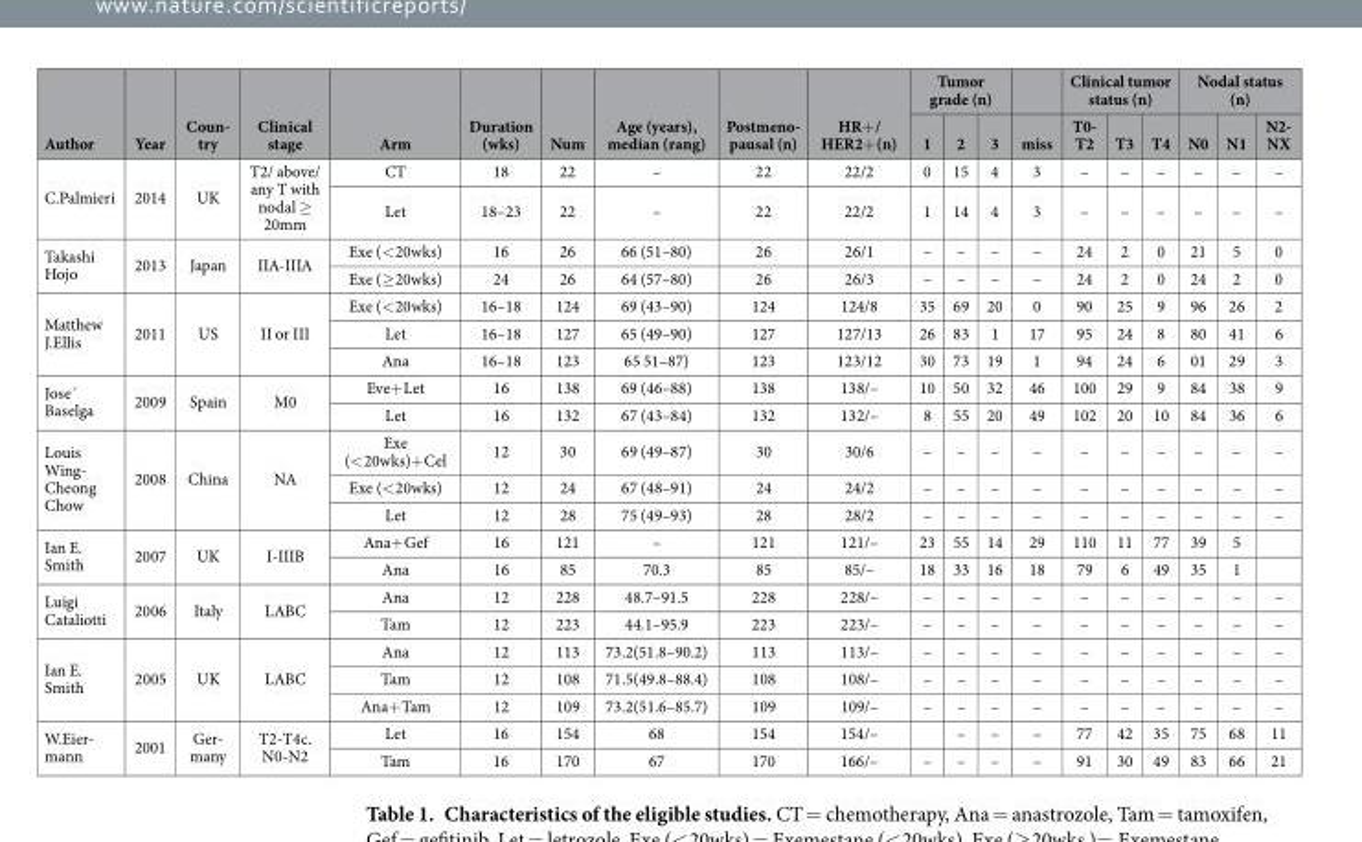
<table><thead><tr><td rowspan="2">Author</td><td rowspan="2">Year</td><td rowspan="2">Coun- try</td><td rowspan="2">Clinical stage</td><td rowspan="2">Arm</td><td rowspan="2">Duration (wks)</td><td rowspan="2">Num</td><td rowspan="2">Age (years), median (rang)</td><td rowspan="2">Postmeno- pausal (n)</td><td rowspan="2">HR+ / HER2+ (n)</td><td colspan="3">Tumor grade (n)</td><td rowspan="2">miss</td><td colspan="3">Clinical tumor status (n)</td><td colspan="3">Nodal status (n)</td></tr><tr><td>1</td><td>2</td><td>3</td><td>T0- T2</td><td>T3</td><td>T4</td><td>N0</td><td>N1</td><td>N2- NX</td></tr></thead><tbody><tr><td rowspan="2">C.Palmieri</td><td rowspan="2">2014</td><td rowspan="2">UK</td><td rowspan="2">T2/ above/ any T with nodal ≥ 20mm</td><td>CT</td><td>18</td><td>22</td><td>–</td><td>22</td><td>22/2</td><td>0</td><td>15</td><td>4</td><td>3</td><td>–</td><td>–</td><td>–</td><td>–</td><td>–</td><td>–</td></tr><tr><td>Let</td><td>18–23</td><td>22</td><td>–</td><td>22</td><td>22/2</td><td>1</td><td>14</td><td>4</td><td>3</td><td>–</td><td>–</td><td>–</td><td>–</td><td>–</td><td>–</td></tr><tr><td rowspan="2">Takashi Hojo</td><td rowspan="2">2013</td><td rowspan="2">Japan</td><td rowspan="2">IIA-IIIA</td><td>Exe (&lt; 20wks)</td><td>16</td><td>26</td><td>66 (51–80)</td><td>26</td><td>26/1</td><td>–</td><td>–</td><td>–</td><td>–</td><td>24</td><td>2</td><td>0</td><td>21</td><td>5</td><td>0</td></tr><tr><td>Exe (≥ 20wks)</td><td>24</td><td>26</td><td>64 (57–80)</td><td>26</td><td>26/3</td><td>–</td><td>–</td><td>–</td><td>–</td><td>24</td><td>2</td><td>0</td><td>24</td><td>2</td><td>0</td></tr><tr><td rowspan="3">Matthew J.Ellis</td><td rowspan="3">2011</td><td rowspan="3">US</td><td rowspan="3">II or III</td><td>Exe (&lt; 20wks)</td><td>16–18</td><td>124</td><td>69 (43–90)</td><td>124</td><td>124/8</td><td>35</td><td>69</td><td>20</td><td>0</td><td>90</td><td>25</td><td>9</td><td>96</td><td>26</td><td>2</td></tr><tr><td>Let</td><td>16–18</td><td>127</td><td>65 (49–90)</td><td>127</td><td>127/13</td><td>26</td><td>83</td><td>1</td><td>17</td><td>95</td><td>24</td><td>8</td><td>80</td><td>41</td><td>6</td></tr><tr><td>Ana</td><td>16–18</td><td>123</td><td>65 51–87)</td><td>123</td><td>123/12</td><td>30</td><td>73</td><td>19</td><td>1</td><td>94</td><td>24</td><td>6</td><td>01</td><td>29</td><td>3</td></tr><tr><td rowspan="2">Jose´ Baselga</td><td rowspan="2">2009</td><td rowspan="2">Spain</td><td rowspan="2">M0</td><td>Eve+ Let</td><td>16</td><td>138</td><td>69 (46–88)</td><td>138</td><td>138/–</td><td>10</td><td>50</td><td>32</td><td>46</td><td>100</td><td>29</td><td>9</td><td>84</td><td>38</td><td>9</td></tr><tr><td>Let</td><td>16</td><td>132</td><td>67 (43–84)</td><td>132</td><td>132/–</td><td>8</td><td>55</td><td>20</td><td>49</td><td>102</td><td>20</td><td>10</td><td>84</td><td>36</td><td>6</td></tr><tr><td rowspan="3">Louis Wing- Cheong Chow</td><td rowspan="3">2008</td><td rowspan="3">China</td><td rowspan="3">NA</td><td>Exe (&lt; 20wks)+ Cel</td><td>12</td><td>30</td><td>69 (49–87)</td><td>30</td><td>30/6</td><td>–</td><td>–</td><td>–</td><td>–</td><td>–</td><td>–</td><td>–</td><td>–</td><td>–</td><td>–</td></tr><tr><td>Exe (&lt; 20wks)</td><td>12</td><td>24</td><td>67 (48–91)</td><td>24</td><td>24/2</td><td>–</td><td>–</td><td>–</td><td>–</td><td>–</td><td>–</td><td>–</td><td>–</td><td>–</td><td>–</td></tr><tr><td>Let</td><td>12</td><td>28</td><td>75 (49–93)</td><td>28</td><td>28/2</td><td>–</td><td>–</td><td>–</td><td>–</td><td>–</td><td>–</td><td>–</td><td>–</td><td>–</td><td>–</td></tr><tr><td rowspan="2">Ian E. Smith</td><td rowspan="2">2007</td><td rowspan="2">UK</td><td rowspan="2">I-IIIB</td><td>Ana+ Gef</td><td>16</td><td>121</td><td>–</td><td>121</td><td>121/–</td><td>23</td><td>55</td><td>14</td><td>29</td><td>110</td><td>11</td><td>77</td><td>39</td><td>5</td><td></td></tr><tr><td>Ana</td><td>16</td><td>85</td><td>70.3</td><td>85</td><td>85/–</td><td>18</td><td>33</td><td>16</td><td>18</td><td>79</td><td>6</td><td>49</td><td>35</td><td>1</td><td></td></tr><tr><td rowspan="2">Luigi Cataliotti</td><td rowspan="2">2006</td><td rowspan="2">Italy</td><td rowspan="2">LABC</td><td>Ana</td><td>12</td><td>228</td><td>48.7–91.5</td><td>228</td><td>228/–</td><td>–</td><td>–</td><td>–</td><td>–</td><td>–</td><td>–</td><td>–</td><td>–</td><td>–</td><td>–</td></tr><tr><td>Tam</td><td>12</td><td>223</td><td>44.1–95.9</td><td>223</td><td>223/–</td><td>–</td><td>–</td><td>–</td><td>–</td><td>–</td><td>–</td><td>–</td><td>–</td><td>–</td><td>–</td></tr><tr><td rowspan="3">Ian E. Smith</td><td rowspan="3">2005</td><td rowspan="3">UK</td><td rowspan="3">LABC</td><td>Ana</td><td>12</td><td>113</td><td>73.2(51.8–90.2)</td><td>113</td><td>113/–</td><td>–</td><td>–</td><td>–</td><td>–</td><td>–</td><td>–</td><td>–</td><td>–</td><td>–</td><td>–</td></tr><tr><td>Tam</td><td>12</td><td>108</td><td>71.5(49.8–88.4)</td><td>108</td><td>108/–</td><td>–</td><td>–</td><td>–</td><td>–</td><td>–</td><td>–</td><td>–</td><td>–</td><td>–</td><td>–</td></tr><tr><td>Ana+ Tam</td><td>12</td><td>109</td><td>73.2(51.6–85.7)</td><td>109</td><td>109/–</td><td>–</td><td>–</td><td>–</td><td>–</td><td>–</td><td>–</td><td>–</td><td>–</td><td>–</td><td>–</td></tr><tr><td rowspan="2">W.Eier- mann</td><td rowspan="2">2001</td><td rowspan="2">Ger- many</td><td rowspan="2">T2-T4c. N0-N2</td><td>Let</td><td>16</td><td>154</td><td>68</td><td>154</td><td>154/–</td><td></td><td>–</td><td>–</td><td>–</td><td>77</td><td>42</td><td>35</td><td>75</td><td>68</td><td>11</td></tr><tr><td>Tam</td><td>16</td><td>170</td><td>67</td><td>170</td><td>166/–</td><td>–</td><td>–</td><td>–</td><td>–</td><td>91</td><td>30</td><td>49</td><td>83</td><td>66</td><td>21</td></tr></tbody></table>